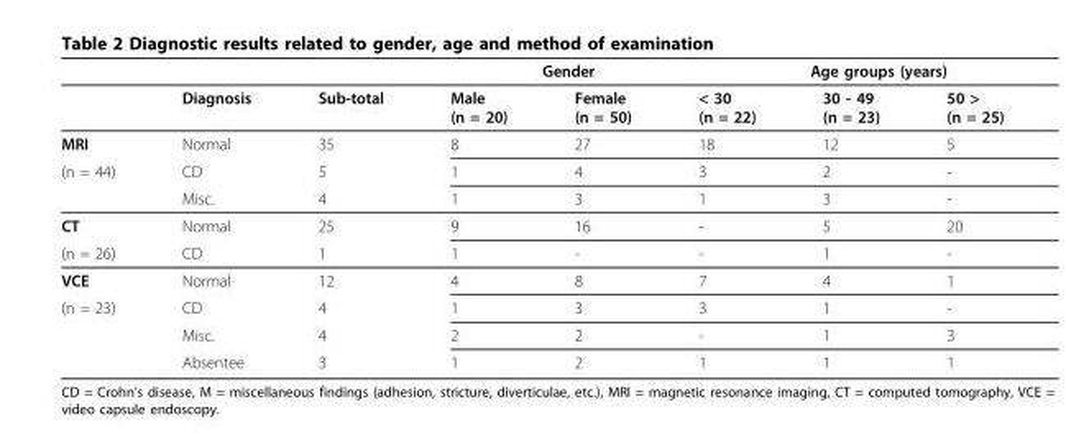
<table><thead><tr><td rowspan="2"></td><td rowspan="2">Diagnosis</td><td rowspan="2">Sub-total</td><td colspan="2">Gender</td><td colspan="3">Age groups (years)</td></tr><tr><td>Male (n = 20)</td><td>Female (n = 50)</td><td>&lt; 30 (n = 22)</td><td>30 - 49 (n = 23)</td><td>50 &gt; (n = 25)</td></tr></thead><tbody><tr><td>MRI</td><td>Normal</td><td>35</td><td>8</td><td>27</td><td>18</td><td>12</td><td>5</td></tr><tr><td rowspan="2">(n = 44)</td><td>CD</td><td>5</td><td>1</td><td>4</td><td>3</td><td>2</td><td>-</td></tr><tr><td>Misc.</td><td>4</td><td>1</td><td>3</td><td>1</td><td>3</td><td>-</td></tr><tr><td>CT</td><td>Normal</td><td>25</td><td>9</td><td>16</td><td>-</td><td>5</td><td>20</td></tr><tr><td>(n = 26)</td><td>CD</td><td>1</td><td>1</td><td>-</td><td>-</td><td>1</td><td>-</td></tr><tr><td>VCE</td><td>Normal</td><td>12</td><td>4</td><td>8</td><td>7</td><td>4</td><td>1</td></tr><tr><td rowspan="3">(n = 23)</td><td>CD</td><td>4</td><td>1</td><td>3</td><td>3</td><td>1</td><td>-</td></tr><tr><td>Misc.</td><td>4</td><td>2</td><td>2</td><td>-</td><td>1</td><td>3</td></tr><tr><td>Absentee</td><td>3</td><td>1</td><td>2</td><td>1</td><td>1</td><td>1</td></tr></tbody></table>